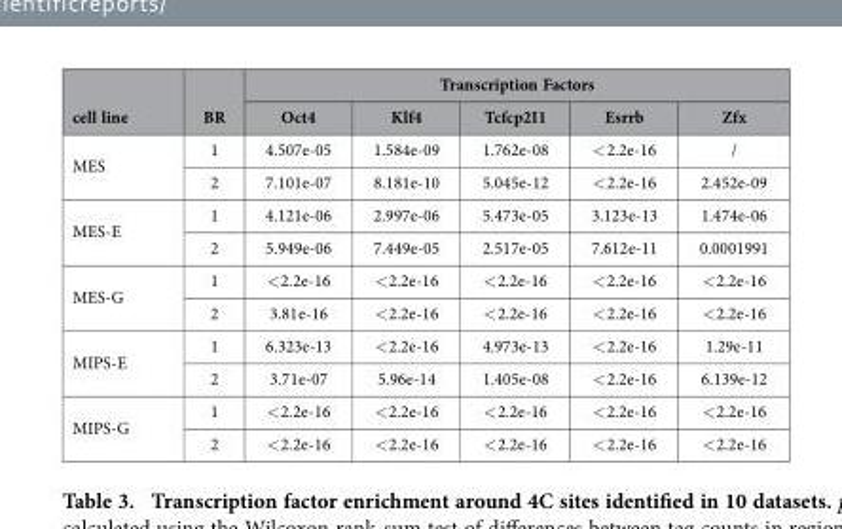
<table><thead><tr><td rowspan="2">cell line</td><td rowspan="2">BR</td><td colspan="5">Transcription Factors</td></tr><tr><td>Oct4</td><td>Klf4</td><td>Tcfcp2I1</td><td>Esrrb</td><td>Zfx</td></tr></thead><tbody><tr><td rowspan="2">MES</td><td>1</td><td>4.507e-05</td><td>1.584e-09</td><td>1.762e-08</td><td>&lt; 2.2e-16</td><td>/</td></tr><tr><td>2</td><td>7.101e-07</td><td>8.181e-10</td><td>5.045e-12</td><td>&lt; 2.2e-16</td><td>2.452e-09</td></tr><tr><td rowspan="2">MES-E</td><td>1</td><td>4.121e-06</td><td>2.997e-06</td><td>5.473e-05</td><td>3.123e-13</td><td>1.474e-06</td></tr><tr><td>2</td><td>5.949e-06</td><td>7.449e-05</td><td>2.517e-05</td><td>7.612e-11</td><td>0.0001991</td></tr><tr><td rowspan="2">MES-G</td><td>1</td><td>&lt; 2.2e-16</td><td>&lt; 2.2e-16</td><td>&lt; 2.2e-16</td><td>&lt; 2.2e-16</td><td>&lt; 2.2e-16</td></tr><tr><td>2</td><td>3.81e-16</td><td>&lt; 2.2e-16</td><td>&lt; 2.2e-16</td><td>&lt; 2.2e-16</td><td>&lt; 2.2e-16</td></tr><tr><td rowspan="2">MIPS-E</td><td>1</td><td>6.323e-13</td><td>&lt; 2.2e-16</td><td>4.973e-13</td><td>&lt; 2.2e-16</td><td>1.29e-11</td></tr><tr><td>2</td><td>3.71e-07</td><td>5.96e-14</td><td>1.405e-08</td><td>&lt; 2.2e-16</td><td>6.139e-12</td></tr><tr><td rowspan="2">MIPS-G</td><td>1</td><td>&lt; 2.2e-16</td><td>&lt; 2.2e-16</td><td>&lt; 2.2e-16</td><td>&lt; 2.2e-16</td><td>&lt; 2.2e-16</td></tr><tr><td>2</td><td>&lt; 2.2e-16</td><td>&lt; 2.2e-16</td><td>&lt; 2.2e-16</td><td>&lt; 2.2e-16</td><td>&lt; 2.2e-16</td></tr></tbody></table>